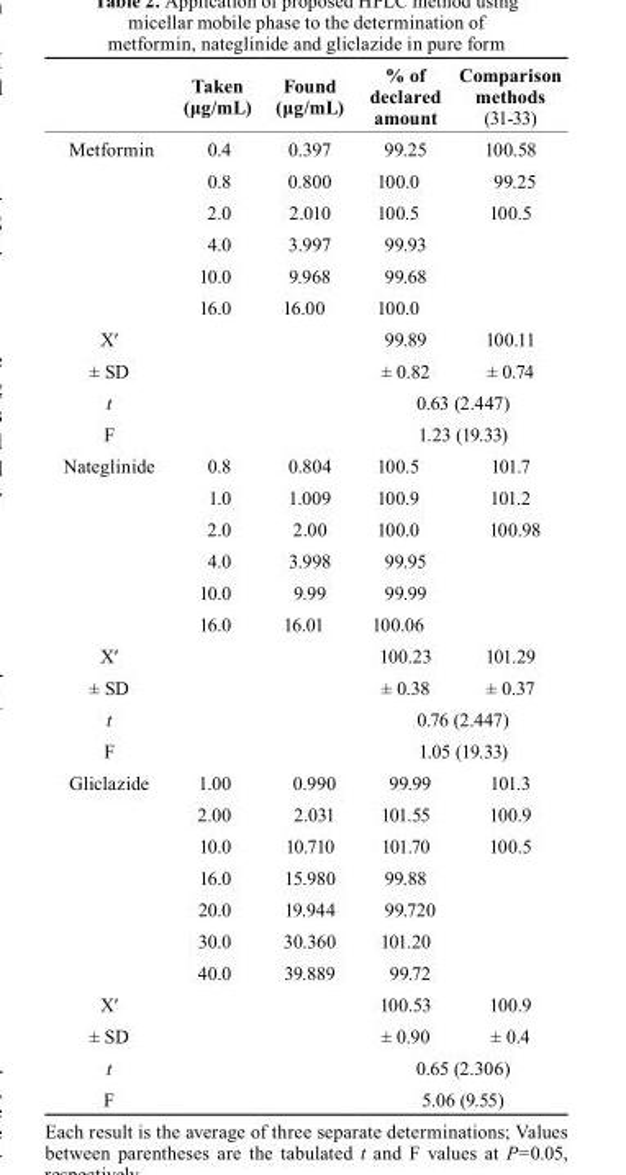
<table><thead><tr><td></td><td>taken (μg/mL)</td><td>Found (μg/mL)</td><td>% of declared amount</td><td>comparison methods (31-33)</td></tr></thead><tbody><tr><td rowspan="6">Metformin</td><td>0.4</td><td>0.397</td><td>99.25</td><td>100.58</td></tr><tr><td>0.8</td><td>0.800</td><td>100.0</td><td>99.25</td></tr><tr><td>2.0</td><td>2.010</td><td>100.5</td><td>100.5</td></tr><tr><td>4.0</td><td>3.997</td><td>99.93</td><td></td></tr><tr><td>10.0</td><td>9.968</td><td>99.68</td><td></td></tr><tr><td>16.0</td><td>16.00</td><td>100.0</td><td></td></tr><tr><td>X′</td><td></td><td></td><td>99.89</td><td>100.11</td></tr><tr><td>± SD</td><td></td><td></td><td>± 0.82</td><td>± 0.74</td></tr><tr><td>t</td><td></td><td></td><td colspan="2">0.63 (2.447)</td></tr><tr><td>F</td><td></td><td></td><td colspan="2">1.23 (19.33)</td></tr><tr><td rowspan="6">Nateglinide</td><td>0.8</td><td>0.804</td><td>100.5</td><td>101.7</td></tr><tr><td>1.0</td><td>1.009</td><td>100.9</td><td>101.2</td></tr><tr><td>2.0</td><td>2.00</td><td>100.0</td><td>100.98</td></tr><tr><td>4.0</td><td>3.998</td><td>99.95</td><td></td></tr><tr><td>10.0</td><td>9.99</td><td>99.99</td><td></td></tr><tr><td>16.0</td><td>16.01</td><td>100.06</td><td></td></tr><tr><td>X′</td><td></td><td></td><td>100.23</td><td>101.29</td></tr><tr><td>± SD</td><td></td><td></td><td>± 0.38</td><td>± 0.37</td></tr><tr><td>t</td><td></td><td></td><td colspan="2">0.76 (2.447)</td></tr><tr><td>F</td><td></td><td></td><td colspan="2">1.05 (19.33)</td></tr><tr><td rowspan="7">Gliclazide</td><td>1.00</td><td>0.990</td><td>99.99</td><td>101.3</td></tr><tr><td>2.00</td><td>2.031</td><td>101.55</td><td>100.9</td></tr><tr><td>10.0</td><td>10.710</td><td>101.70</td><td>100.5</td></tr><tr><td>16.0</td><td>15.980</td><td>99.88</td><td></td></tr><tr><td>20.0</td><td>19.944</td><td>99.720</td><td></td></tr><tr><td>30.0</td><td>30.360</td><td>101.20</td><td></td></tr><tr><td>40.0</td><td>39.889</td><td>99.72</td><td></td></tr><tr><td>X′</td><td></td><td></td><td>100.53</td><td>100.9</td></tr><tr><td>± SD</td><td></td><td></td><td>± 0.90</td><td>± 0.4</td></tr><tr><td>t</td><td></td><td></td><td colspan="2">0.65 (2.306)</td></tr><tr><td>F</td><td></td><td></td><td colspan="2">5.06 (9.55)</td></tr></tbody></table>